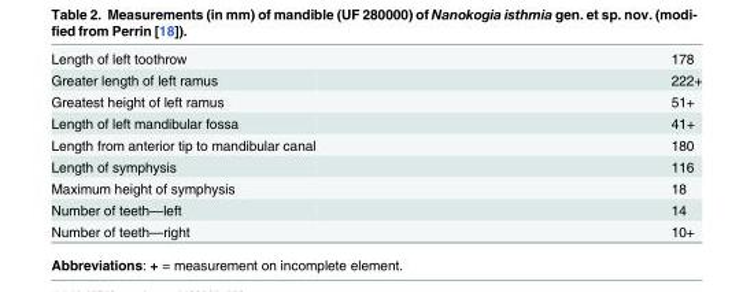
<table><tbody><tr><td>Length of left toothrow</td><td>178</td></tr><tr><td>Greater length of left ramus</td><td>222+</td></tr><tr><td>Greatest height of left ramus</td><td>51+</td></tr><tr><td>Length of left mandibular fossa</td><td>41+</td></tr><tr><td>Length from anterior tip to mandibular canal</td><td>180</td></tr><tr><td>Length of symphysis</td><td>116</td></tr><tr><td>Maximum height of symphysis</td><td>18</td></tr><tr><td>Number of teeth—left</td><td>14</td></tr><tr><td>Number of teeth—right</td><td>10+</td></tr></tbody></table>